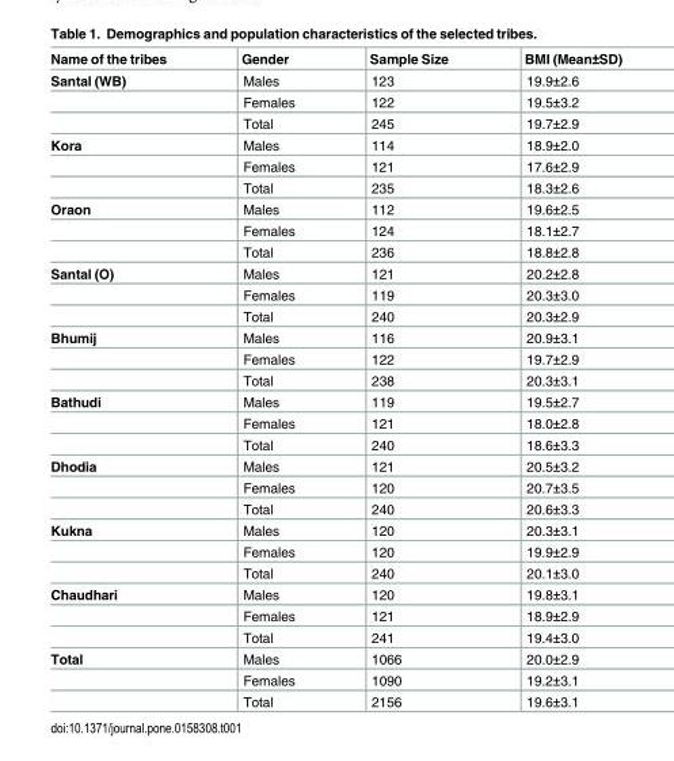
<table><thead><tr><td>Name of the tribes</td><td>Gender</td><td>Sample Size</td><td>BMI (Mean±SD)</td></tr></thead><tbody><tr><td rowspan="3">Santal (WB)</td><td>Males</td><td>123</td><td>19.9±2.6</td></tr><tr><td>Females</td><td>122</td><td>19.5±3.2</td></tr><tr><td>Total</td><td>245</td><td>19.7±2.9</td></tr><tr><td rowspan="3">Kora</td><td>Males</td><td>114</td><td>18.9±2.0</td></tr><tr><td>Females</td><td>121</td><td>17.6±2.9</td></tr><tr><td>Total</td><td>235</td><td>18.3±2.6</td></tr><tr><td rowspan="3">Oraon</td><td>Males</td><td>112</td><td>19.6±2.5</td></tr><tr><td>Females</td><td>124</td><td>18.1±2.7</td></tr><tr><td>Total</td><td>236</td><td>18.8±2.8</td></tr><tr><td rowspan="3">Santal (O)</td><td>Males</td><td>121</td><td>20.2±2.8</td></tr><tr><td>Females</td><td>119</td><td>20.3±3.0</td></tr><tr><td>Total</td><td>240</td><td>20.3±2.9</td></tr><tr><td rowspan="3">Bhumij</td><td>Males</td><td>116</td><td>20.9±3.1</td></tr><tr><td>Females</td><td>122</td><td>19.7±2.9</td></tr><tr><td>Total</td><td>238</td><td>20.3±3.1</td></tr><tr><td rowspan="3">Bathudi</td><td>Males</td><td>119</td><td>19.5±2.7</td></tr><tr><td>Females</td><td>121</td><td>18.0±2.8</td></tr><tr><td>Total</td><td>240</td><td>18.6±3.3</td></tr><tr><td rowspan="3">Dhodia</td><td>Males</td><td>121</td><td>20.5±3.2</td></tr><tr><td>Females</td><td>120</td><td>20.7±3.5</td></tr><tr><td>Total</td><td>240</td><td>20.6±3.3</td></tr><tr><td rowspan="3">Kukna</td><td>Males</td><td>120</td><td>20.3±3.1</td></tr><tr><td>Females</td><td>120</td><td>19.9±2.9</td></tr><tr><td>Total</td><td>240</td><td>20.1±3.0</td></tr><tr><td rowspan="3">Chaudhari</td><td>Males</td><td>120</td><td>19.8±3.1</td></tr><tr><td>Females</td><td>121</td><td>18.9±2.9</td></tr><tr><td>Total</td><td>241</td><td>19.4±3.0</td></tr><tr><td rowspan="3">Total</td><td>Males</td><td>1066</td><td>20.0±2.9</td></tr><tr><td>Females</td><td>1090</td><td>19.2±3.1</td></tr><tr><td>Total</td><td>2156</td><td>19.6±3.1</td></tr></tbody></table>